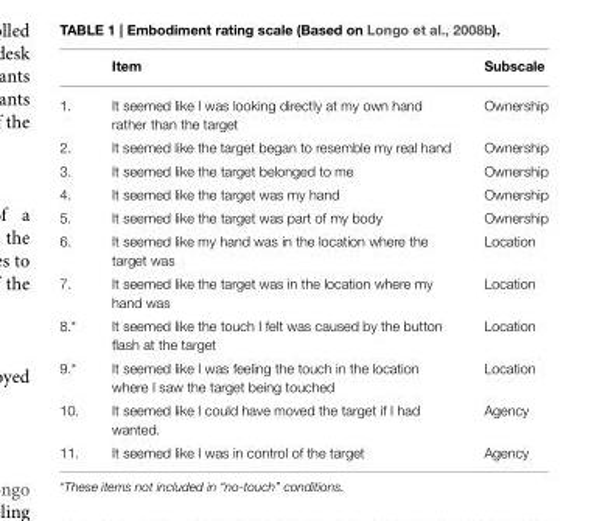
<table><thead><tr><td></td><td>Item</td><td>Subscale</td></tr></thead><tbody><tr><td>1.</td><td>It seemed like I was looking directly at my own hand rather than the target</td><td>Ownership</td></tr><tr><td>2.</td><td>It seemed like the target began to resemble my real hand</td><td>Ownership</td></tr><tr><td>3.</td><td>It seemed like the target belonged to me</td><td>Ownership</td></tr><tr><td>4.</td><td>It seemed like the target was my hand</td><td>Ownership</td></tr><tr><td>5.</td><td>It seemed like the target was part of my body</td><td>Ownership</td></tr><tr><td>6.</td><td>It seemed like my hand was in the location where the target was</td><td>Location</td></tr><tr><td>7.</td><td>It seemed like the target was in the location where my hand was</td><td>Location</td></tr><tr><td>8.*</td><td>It seemed like the touch I felt was caused by the button flash at the target</td><td>Location</td></tr><tr><td>9.*</td><td>It seemed like I was feeling the touch in the location where I saw the target being touched</td><td>Location</td></tr><tr><td>10.</td><td>It seemed like I could have moved the target if I had wanted.</td><td>Agency</td></tr><tr><td>11.</td><td>It seemed like I was in control of the target</td><td>Agency</td></tr></tbody></table>